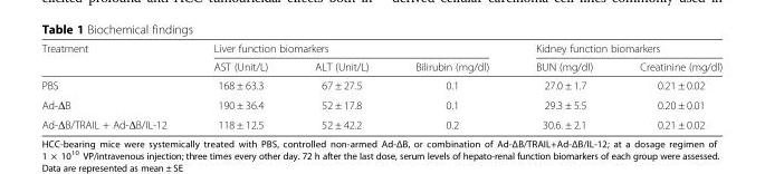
<table><thead><tr><td rowspan="2">Treatment</td><td colspan="3">Liver function biomarkers</td><td colspan="2">Kidney function biomarkers</td></tr><tr><td>AST (Unit/L)</td><td>ALT (Unit/L)</td><td>Bilirubin (mg/dl)</td><td>BUN (mg/dl)</td><td>Creatinine (mg/dl)</td></tr></thead><tbody><tr><td>PBS</td><td>168 ± 63.3</td><td>67 ± 27.5</td><td>0.1</td><td>27.0 ± 1.7</td><td>0.21 ± 0.02</td></tr><tr><td>Ad-ΔB</td><td>190 ± 36.4</td><td>52 ± 17.8</td><td>0.1</td><td>29.3 ± 5.5</td><td>0.20 ± 0.01</td></tr><tr><td>Ad-ΔB/TRAIL + Ad-ΔB/IL-12</td><td>118 ± 12.5</td><td>52 ± 42.2</td><td>0.2</td><td>30.6. ± 2.1</td><td>0.21 ± 0.02</td></tr></tbody></table>